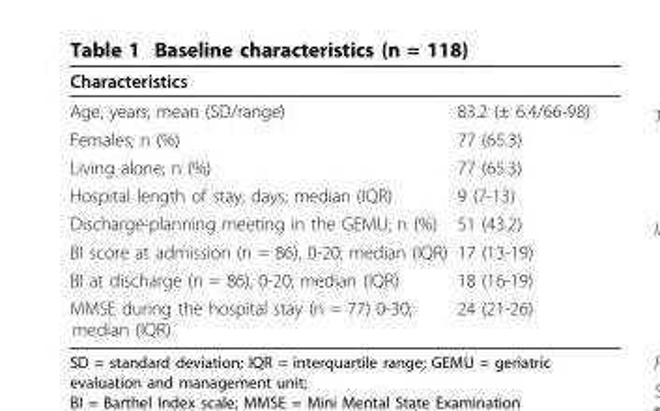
<table><thead><tr><td>Characteristics</td><td></td></tr></thead><tbody><tr><td>Age, years; mean (SD/range)</td><td>83.2 (± 6.4/66-98)</td></tr><tr><td>Females; n (%)</td><td>77 (65.3)</td></tr><tr><td>Living alone; n (%)</td><td>77 (65.3)</td></tr><tr><td>Hospital length of stay, days; median (IQR)</td><td>9 (7-13)</td></tr><tr><td>Discharge-planning meeting in the GEMU; n (%)</td><td>51 (43.2)</td></tr><tr><td>BI score at admission (n = 86), 0-20; median (IQR)</td><td>17 (13-19)</td></tr><tr><td>BI at discharge (n = 86), 0-20; median (IQR)</td><td>18 (16-19)</td></tr><tr><td>MMSE during the hospital stay (n = 77) 0-30; median (IQR)</td><td>24 (21-26)</td></tr></tbody></table>